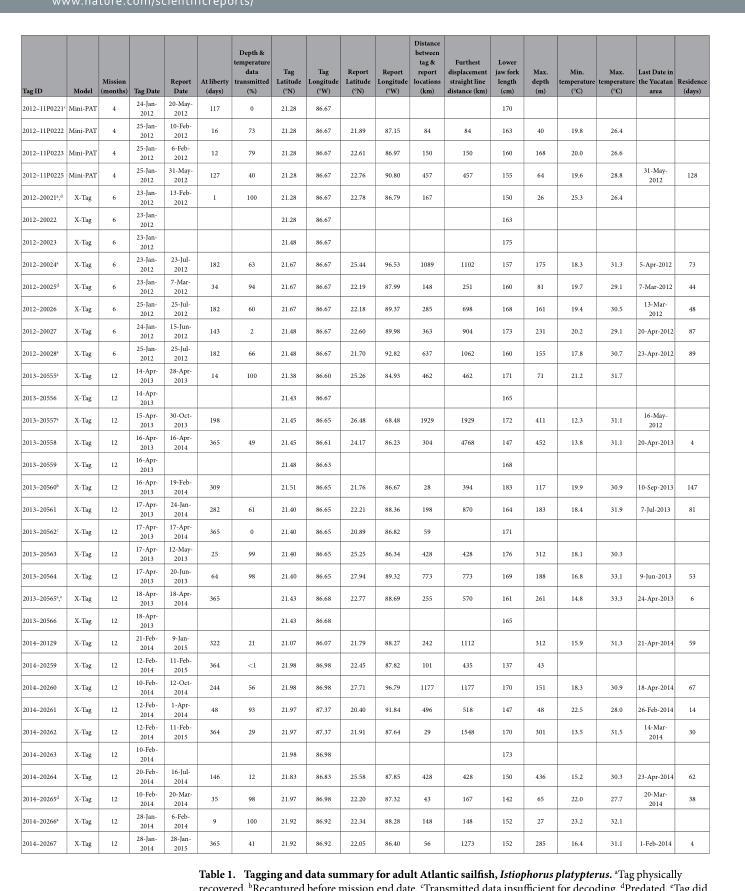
<table><thead><tr><td>Tag ID</td><td>Model</td><td>Mission (months)</td><td>Tag Date</td><td>Report Date</td><td>At liberty (days)</td><td>Depth &amp; temperature data transmitted (%)</td><td>Tag Latitude (°N)</td><td>Tag Longitude (°W)</td><td>Report Latitude (°N)</td><td>Report Longitude (°W)</td><td>Distance between tag &amp; report locations (km)</td><td>Furthest displacement straight line distance (km)</td><td>Lower jaw fork length (cm)</td><td>Max. depth (m)</td><td>Min. temperature (°C)</td><td>Max. temperature (°C)</td><td>Last Date in the Yucatan area</td><td>Residence (days)</td></tr></thead><tbody><tr><td>2012–11P0221<sup>c</sup></td><td>Mini-PAT</td><td>4</td><td>24-Jan- 2012</td><td>20-May- 2012</td><td>117</td><td>0</td><td>21.28</td><td>86.67</td><td></td><td></td><td></td><td></td><td>170</td><td></td><td></td><td></td><td></td><td></td></tr><tr><td>2012–11P0222</td><td>Mini-PAT</td><td>4</td><td>25-Jan- 2012</td><td>10-Feb- 2012</td><td>16</td><td>73</td><td>21.28</td><td>86.67</td><td>21.89</td><td>87.15</td><td>84</td><td>84</td><td>163</td><td>40</td><td>19.8</td><td>26.4</td><td></td><td></td></tr><tr><td>2012–11P0223</td><td>Mini-PAT</td><td>4</td><td>25-Jan- 2012</td><td>6-Feb- 2012</td><td>12</td><td>79</td><td>21.28</td><td>86.67</td><td>22.61</td><td>86.97</td><td>150</td><td>150</td><td>160</td><td>168</td><td>20.0</td><td>26.6</td><td></td><td></td></tr><tr><td>2012–11P0225</td><td>Mini-PAT</td><td>4</td><td>25-Jan- 2012</td><td>31-May- 2012</td><td>127</td><td>40</td><td>21.28</td><td>86.67</td><td>22.76</td><td>90.80</td><td>457</td><td>457</td><td>155</td><td>64</td><td>19.6</td><td>28.8</td><td>31-May- 2012</td><td>128</td></tr><tr><td>2012–20021<sup>a</sup>,<sup>d</sup></td><td>X-Tag</td><td>6</td><td>23-Jan- 2012</td><td>13-Feb- 2012</td><td>1</td><td>100</td><td>21.28</td><td>86.67</td><td>22.78</td><td>86.79</td><td>167</td><td></td><td>150</td><td>26</td><td>25.3</td><td>26.4</td><td></td><td></td></tr><tr><td>2012–20022</td><td>X-Tag</td><td>6</td><td>23-Jan- 2012</td><td></td><td></td><td></td><td>21.28</td><td>86.67</td><td></td><td></td><td></td><td></td><td>163</td><td></td><td></td><td></td><td></td><td></td></tr><tr><td>2012–20023</td><td>X-Tag</td><td>6</td><td>23-Jan- 2012</td><td></td><td></td><td></td><td>21.48</td><td>86.67</td><td></td><td></td><td></td><td></td><td>175</td><td></td><td></td><td></td><td></td><td></td></tr><tr><td>2012–20024<sup>a</sup></td><td>X-Tag</td><td>6</td><td>23-Jan- 2012</td><td>23-Jul- 2012</td><td>182</td><td>63</td><td>21.67</td><td>86.67</td><td>25.44</td><td>96.53</td><td>1089</td><td>1102</td><td>157</td><td>175</td><td>18.3</td><td>31.3</td><td>5-Apr-2012</td><td>73</td></tr><tr><td>2012–20025<sup>d</sup></td><td>X-Tag</td><td>6</td><td>23-Jan- 2012</td><td>7-Mar- 2012</td><td>34</td><td>94</td><td>21.67</td><td>86.67</td><td>22.19</td><td>87.99</td><td>148</td><td>251</td><td>160</td><td>81</td><td>19.7</td><td>29.1</td><td>7-Mar-2012</td><td>44</td></tr><tr><td>2012–20026</td><td>X-Tag</td><td>6</td><td>25-Jan- 2012</td><td>25-Jul- 2012</td><td>182</td><td>60</td><td>21.67</td><td>86.67</td><td>22.18</td><td>89.37</td><td>285</td><td>698</td><td>168</td><td>161</td><td>19.4</td><td>30.5</td><td>13-Mar- 2012</td><td>48</td></tr><tr><td>2012–20027</td><td>X-Tag</td><td>6</td><td>24-Jan- 2012</td><td>15-Jun- 2012</td><td>143</td><td>2</td><td>21.48</td><td>86.67</td><td>22.60</td><td>89.98</td><td>363</td><td>904</td><td>173</td><td>231</td><td>20.2</td><td>29.1</td><td>20-Apr-2012</td><td>87</td></tr><tr><td>2012–20028<sup>a</sup></td><td>X-Tag</td><td>6</td><td>25-Jan- 2012</td><td>25-Jul- 2012</td><td>182</td><td>66</td><td>21.48</td><td>86.67</td><td>21.70</td><td>92.82</td><td>637</td><td>1062</td><td>160</td><td>155</td><td>17.8</td><td>30.7</td><td>23-Apr-2012</td><td>89</td></tr><tr><td>2013–20555<sup>a</sup></td><td>X-Tag</td><td>12</td><td>14-Apr- 2013</td><td>28-Apr- 2013</td><td>14</td><td>100</td><td>21.38</td><td>86.60</td><td>25.26</td><td>84.93</td><td>462</td><td>462</td><td>171</td><td>71</td><td>21.2</td><td>31.7</td><td></td><td></td></tr><tr><td>2013–20556</td><td>X-Tag</td><td>12</td><td>14-Apr- 2013</td><td></td><td></td><td></td><td>21.43</td><td>86.67</td><td></td><td></td><td></td><td></td><td>165</td><td></td><td></td><td></td><td></td><td></td></tr><tr><td>2013–20557<sup>a</sup></td><td>X-Tag</td><td>12</td><td>15-Apr- 2013</td><td>30-Oct- 2013</td><td>198</td><td></td><td>21.45</td><td>86.65</td><td>26.48</td><td>68.48</td><td>1929</td><td>1929</td><td>172</td><td>411</td><td>12.3</td><td>31.1</td><td>16-May- 2012</td><td></td></tr><tr><td>2013–20558</td><td>X-Tag</td><td>12</td><td>16-Apr- 2013</td><td>16-Apr- 2014</td><td>365</td><td>49</td><td>21.45</td><td>86.61</td><td>24.17</td><td>86.23</td><td>304</td><td>4768</td><td>147</td><td>452</td><td>13.8</td><td>31.1</td><td>20-Apr-2013</td><td>4</td></tr><tr><td>2013–20559</td><td>X-Tag</td><td>12</td><td>16-Apr- 2013</td><td></td><td></td><td></td><td>21.48</td><td>86.63</td><td></td><td></td><td></td><td></td><td>168</td><td></td><td></td><td></td><td></td><td></td></tr><tr><td>2013–20560<sup>b</sup></td><td>X-Tag</td><td>12</td><td>16-Apr- 2013</td><td>19-Feb- 2014</td><td>309</td><td></td><td>21.51</td><td>86.65</td><td>21.76</td><td>86.67</td><td>28</td><td>394</td><td>183</td><td>117</td><td>19.9</td><td>30.9</td><td>10-Sep-2013</td><td>147</td></tr><tr><td>2013–20561</td><td>X-Tag</td><td>12</td><td>17-Apr- 2013</td><td>24-Jan- 2014</td><td>282</td><td>61</td><td>21.40</td><td>86.65</td><td>22.21</td><td>88.36</td><td>198</td><td>870</td><td>164</td><td>183</td><td>18.4</td><td>31.9</td><td>7-Jul-2013</td><td>81</td></tr><tr><td>2013–20562<sup>c</sup></td><td>X-Tag</td><td>12</td><td>17-Apr- 2013</td><td>17-Apr- 2014</td><td>365</td><td>0</td><td>21.40</td><td>86.65</td><td>20.89</td><td>86.82</td><td>59</td><td></td><td>171</td><td></td><td></td><td></td><td></td><td></td></tr><tr><td>2013–20563</td><td>X-Tag</td><td>12</td><td>17-Apr- 2013</td><td>12-May- 2013</td><td>25</td><td>99</td><td>21.40</td><td>86.65</td><td>25.25</td><td>86.34</td><td>428</td><td>428</td><td>176</td><td>312</td><td>18.1</td><td>30.3</td><td></td><td></td></tr><tr><td>2013–20564</td><td>X-Tag</td><td>12</td><td>17-Apr- 2013</td><td>20-Jun- 2013</td><td>64</td><td>98</td><td>21.40</td><td>86.65</td><td>27.94</td><td>89.32</td><td>773</td><td>773</td><td>169</td><td>188</td><td>16.8</td><td>33.1</td><td>9-Jun-2013</td><td>53</td></tr><tr><td>2013–20565<sup>a</sup>,<sup>e</sup></td><td>X-Tag</td><td>12</td><td>18-Apr- 2013</td><td>18-Apr- 2014</td><td>365</td><td></td><td>21.43</td><td>86.68</td><td>22.77</td><td>88.69</td><td>255</td><td>570</td><td>161</td><td>261</td><td>14.8</td><td>33.3</td><td>24-Apr-2013</td><td>6</td></tr><tr><td>2013–20566</td><td>X-Tag</td><td>12</td><td>18-Apr- 2013</td><td></td><td></td><td></td><td>21.43</td><td>86.68</td><td></td><td></td><td></td><td></td><td>165</td><td></td><td></td><td></td><td></td><td></td></tr><tr><td>2014–20129</td><td>X-Tag</td><td>12</td><td>21-Feb- 2014</td><td>9-Jan- 2015</td><td>322</td><td>21</td><td>21.07</td><td>86.07</td><td>21.79</td><td>88.27</td><td>242</td><td>1112</td><td></td><td>312</td><td>15.9</td><td>31.3</td><td>21-Apr-2014</td><td>59</td></tr><tr><td>2014–20259</td><td>X-Tag</td><td>12</td><td>12-Feb- 2014</td><td>11-Feb- 2015</td><td>364</td><td>&lt; 1</td><td>21.98</td><td>86.98</td><td>22.45</td><td>87.82</td><td>101</td><td>435</td><td>137</td><td>43</td><td></td><td></td><td></td><td></td></tr><tr><td>2014–20260</td><td>X-Tag</td><td>12</td><td>10-Feb- 2014</td><td>12-Oct- 2014</td><td>244</td><td>56</td><td>21.98</td><td>86.98</td><td>27.71</td><td>96.79</td><td>1177</td><td>1177</td><td>170</td><td>151</td><td>18.3</td><td>30.9</td><td>18-Apr-2014</td><td>67</td></tr><tr><td>2014–20261</td><td>X-Tag</td><td>12</td><td>12-Feb- 2014</td><td>1-Apr- 2014</td><td>48</td><td>93</td><td>21.97</td><td>87.37</td><td>20.40</td><td>91.84</td><td>496</td><td>518</td><td>147</td><td>48</td><td>22.5</td><td>28.0</td><td>26-Feb-2014</td><td>14</td></tr><tr><td>2014–20262</td><td>X-Tag</td><td>12</td><td>12-Feb- 2014</td><td>11-Feb- 2015</td><td>364</td><td>29</td><td>21.97</td><td>87.37</td><td>21.91</td><td>87.64</td><td>29</td><td>1548</td><td>170</td><td>301</td><td>13.5</td><td>31.5</td><td>14-Mar- 2014</td><td>30</td></tr><tr><td>2014–20263</td><td>X-Tag</td><td>12</td><td>10-Feb- 2014</td><td></td><td></td><td></td><td>21.98</td><td>86.98</td><td></td><td></td><td></td><td></td><td>173</td><td></td><td></td><td></td><td></td><td></td></tr><tr><td>2014–20264</td><td>X-Tag</td><td>12</td><td>20-Feb- 2014</td><td>16-Jul- 2014</td><td>146</td><td>12</td><td>21.83</td><td>86.83</td><td>25.58</td><td>87.85</td><td>428</td><td>428</td><td>150</td><td>436</td><td>15.2</td><td>30.3</td><td>23-Apr-2014</td><td>62</td></tr><tr><td>2014–20265<sup>d</sup></td><td>X-Tag</td><td>12</td><td>10-Feb- 2014</td><td>20-Mar- 2014</td><td>35</td><td>98</td><td>21.97</td><td>86.98</td><td>22.20</td><td>87.32</td><td>43</td><td>167</td><td>142</td><td>65</td><td>22.0</td><td>27.7</td><td>20-Mar- 2014</td><td>38</td></tr><tr><td>2014–20266<sup>a</sup></td><td>X-Tag</td><td>12</td><td>28-Jan- 2014</td><td>6-Feb- 2014</td><td>9</td><td>100</td><td>21.92</td><td>86.92</td><td>22.34</td><td>88.28</td><td>148</td><td>148</td><td>152</td><td>27</td><td>23.2</td><td>32.1</td><td></td><td></td></tr><tr><td>2014–20267</td><td>X-Tag</td><td>12</td><td>28-Jan- 2014</td><td>28-Jan- 2015</td><td>365</td><td>41</td><td>21.92</td><td>86.92</td><td>22.05</td><td>86.40</td><td>56</td><td>1273</td><td>152</td><td>285</td><td>16.4</td><td>31.1</td><td>1-Feb-2014</td><td>4</td></tr></tbody></table>